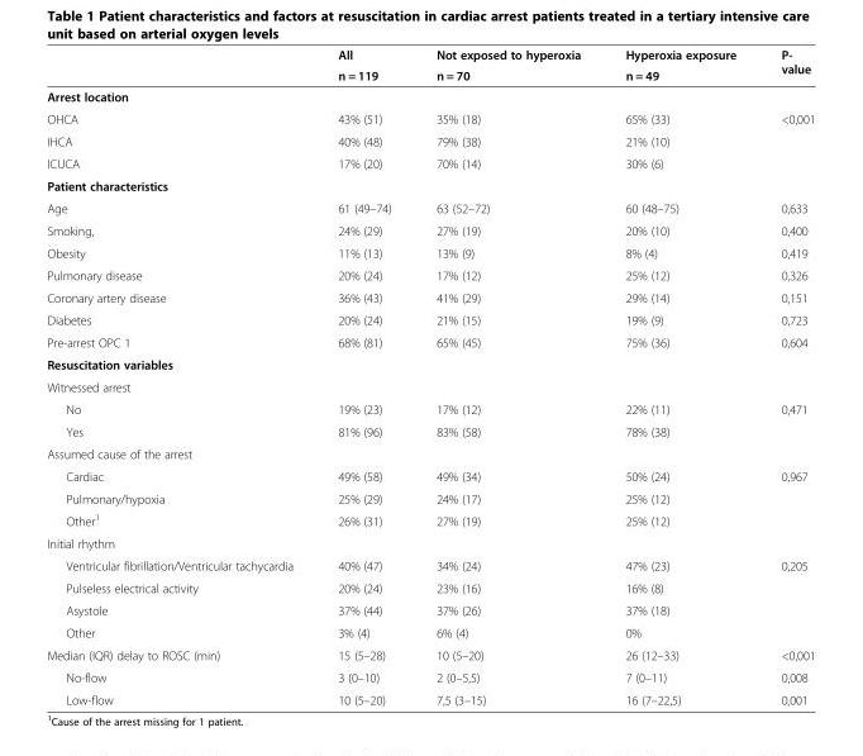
<table><thead><tr><td rowspan="2"></td><td rowspan="2">All n = 119</td><td rowspan="2">Not exposed to hyperoxia n = 70</td><td rowspan="2">Hyperoxia exposure n = 49</td><td rowspan="2">P- value</td></tr><tr></tr></thead><tbody><tr><td colspan="5">Arrest location</td></tr><tr><td>OHCA</td><td>43% (51)</td><td>35% (18)</td><td>65% (33)</td><td>&lt;0,001</td></tr><tr><td>IHCA</td><td>40% (48)</td><td>79% (38)</td><td>21% (10)</td><td></td></tr><tr><td>ICUCA</td><td>17% (20)</td><td>70% (14)</td><td>30% (6)</td><td></td></tr><tr><td colspan="5">Patient characteristics</td></tr><tr><td>Age</td><td>61 (49–74)</td><td>63 (52–72)</td><td>60 (48–75)</td><td>0,633</td></tr><tr><td>Smoking,</td><td>24% (29)</td><td>27% (19)</td><td>20% (10)</td><td>0,400</td></tr><tr><td>Obesity</td><td>11% (13)</td><td>13% (9)</td><td>8% (4)</td><td>0,419</td></tr><tr><td>Pulmonary disease</td><td>20% (24)</td><td>17% (12)</td><td>25% (12)</td><td>0,326</td></tr><tr><td>Coronary artery disease</td><td>36% (43)</td><td>41% (29)</td><td>29% (14)</td><td>0,151</td></tr><tr><td>Diabetes</td><td>20% (24)</td><td>21% (15)</td><td>19% (9)</td><td>0,723</td></tr><tr><td>Pre-arrest OPC 1</td><td>68% (81)</td><td>65% (45)</td><td>75% (36)</td><td>0,604</td></tr><tr><td colspan="5">Resuscitation variables</td></tr><tr><td colspan="5">Witnessed arrest</td></tr><tr><td>No</td><td>19% (23)</td><td>17% (12)</td><td>22% (11)</td><td>0,471</td></tr><tr><td>Yes</td><td>81% (96)</td><td>83% (58)</td><td>78% (38)</td><td></td></tr><tr><td colspan="5">Assumed cause of the arrest</td></tr><tr><td>Cardiac</td><td>49% (58)</td><td>49% (34)</td><td>50% (24)</td><td>0,967</td></tr><tr><td>Pulmonary/hypoxia</td><td>25% (29)</td><td>24% (17)</td><td>25% (12)</td><td></td></tr><tr><td>Other<sup>1</sup></td><td>26% (31)</td><td>27% (19)</td><td>25% (12)</td><td></td></tr><tr><td colspan="5">Initial rhythm</td></tr><tr><td>Ventricular fibrillation/Ventricular tachycardia</td><td>40% (47)</td><td>34% (24)</td><td>47% (23)</td><td>0,205</td></tr><tr><td>Pulseless electrical activity</td><td>20% (24)</td><td>23% (16)</td><td>16% (8)</td><td></td></tr><tr><td>Asystole</td><td>37% (44)</td><td>37% (26)</td><td>37% (18)</td><td></td></tr><tr><td>Other</td><td>3% (4)</td><td>6% (4)</td><td>0%</td><td></td></tr><tr><td>Median (IQR) delay to ROSC (min)</td><td>15 (5–28)</td><td>10 (5–20)</td><td>26 (12–33)</td><td>&lt;0,001</td></tr><tr><td>No-flow</td><td>3 (0–10)</td><td>2 (0–5,5)</td><td>7 (0–11)</td><td>0,008</td></tr><tr><td>Low-flow</td><td>10 (5–20)</td><td>7,5 (3–15)</td><td>16 (7–22,5)</td><td>0,001</td></tr></tbody></table>